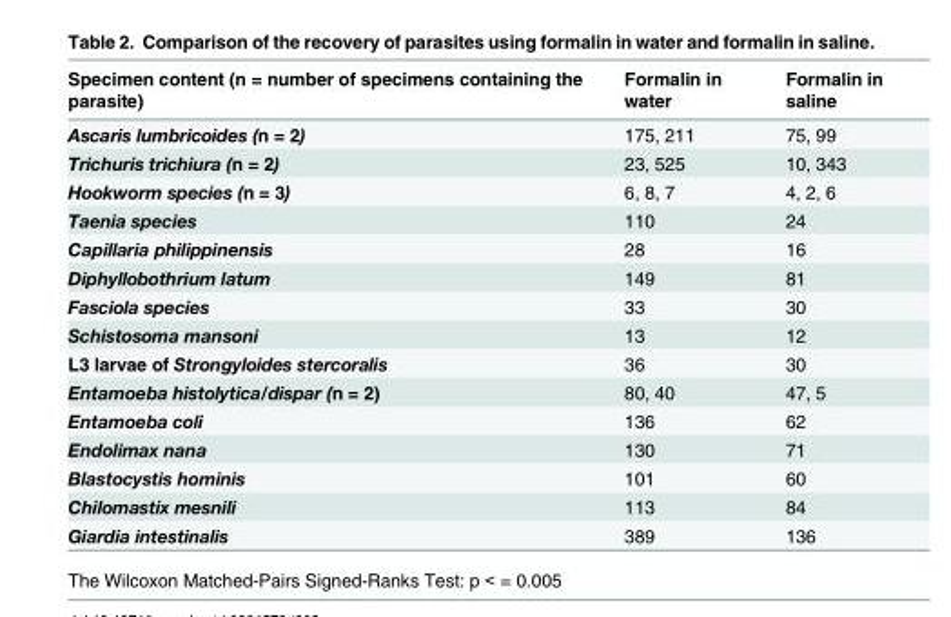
<table><thead><tr><td>Specimen content (n = number of specimens containing the parasite)</td><td>Formalin in water</td><td>Formalin in saline</td></tr></thead><tbody><tr><td>Ascaris lumbricoides (n = 2)</td><td>175, 211</td><td>75, 99</td></tr><tr><td>Trichuris trichiura (n = 2)</td><td>23, 525</td><td>10, 343</td></tr><tr><td>Hookworm species (n = 3)</td><td>6, 8, 7</td><td>4, 2, 6</td></tr><tr><td>Taenia species</td><td>110</td><td>24</td></tr><tr><td>Capillaria philippinensis</td><td>28</td><td>16</td></tr><tr><td>Diphyllobothrium latum</td><td>149</td><td>81</td></tr><tr><td>Fasciola species</td><td>33</td><td>30</td></tr><tr><td>Schistosoma mansoni</td><td>13</td><td>12</td></tr><tr><td>L3 larvae of Strongyloides stercoralis</td><td>36</td><td>30</td></tr><tr><td>Entamoeba histolytica/dispar (n = 2)</td><td>80, 40</td><td>47, 5</td></tr><tr><td>Entamoeba coli</td><td>136</td><td>62</td></tr><tr><td>Endolimax nana</td><td>130</td><td>71</td></tr><tr><td>Blastocystis hominis</td><td>101</td><td>60</td></tr><tr><td>Chilomastix mesnili</td><td>113</td><td>84</td></tr><tr><td>Giardia intestinalis</td><td>389</td><td>136</td></tr></tbody></table>